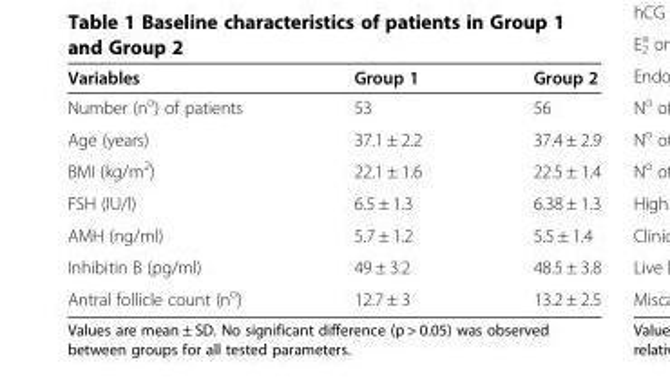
<table><thead><tr><td>Variables</td><td>Group 1</td><td>Group 2</td></tr></thead><tbody><tr><td>Number (n<sup>o</sup>) of patients</td><td>53</td><td>56</td></tr><tr><td>Age (years)</td><td>37.1 ± 2.2</td><td>37.4 ± 2.9</td></tr><tr><td>BMI (kg/m<sup>2</sup>)</td><td>22.1 ± 1.6</td><td>22.5 ± 1.4</td></tr><tr><td>FSH (IU/l)</td><td>6.5 ± 1.3</td><td>6.38 ± 1.3</td></tr><tr><td>AMH (ng/ml)</td><td>5.7 ± 1.2</td><td>5.5 ± 1.4</td></tr><tr><td>Inhibitin B (pg/ml)</td><td>49 ± 3.2</td><td>48.5 ± 3.8</td></tr><tr><td>Antral follicle count (n<sup>o</sup>)</td><td>12.7 ± 3</td><td>13.2 ± 2.5</td></tr></tbody></table>